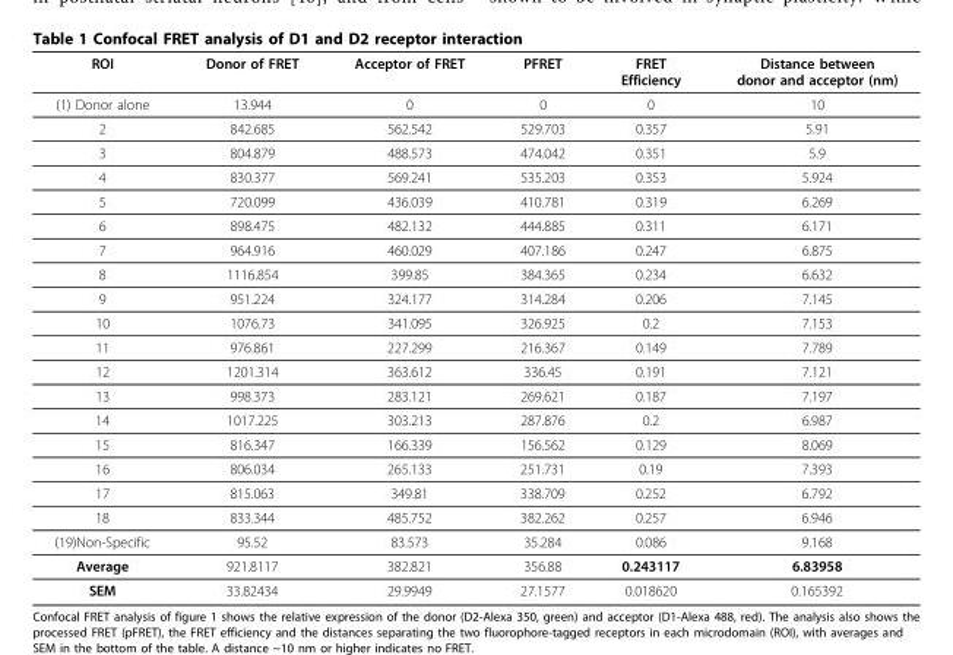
<table><thead><tr><td>ROI</td><td>Donor of FRET</td><td>Acceptor of FRET</td><td>PFRET</td><td>FRET Efficiency</td><td>Distance between donor and acceptor (nm)</td></tr></thead><tbody><tr><td>(1) Donor alone</td><td>13.944</td><td>0</td><td>0</td><td>0</td><td>10</td></tr><tr><td>2</td><td>842.685</td><td>562.542</td><td>529.703</td><td>0.357</td><td>5.91</td></tr><tr><td>3</td><td>804.879</td><td>488.573</td><td>474.042</td><td>0.351</td><td>5.9</td></tr><tr><td>4</td><td>830.377</td><td>569.241</td><td>535.203</td><td>0.353</td><td>5.924</td></tr><tr><td>5</td><td>720.099</td><td>436.039</td><td>410.781</td><td>0.319</td><td>6.269</td></tr><tr><td>6</td><td>898.475</td><td>482.132</td><td>444.885</td><td>0.311</td><td>6.171</td></tr><tr><td>7</td><td>964.916</td><td>460.029</td><td>407.186</td><td>0.247</td><td>6.875</td></tr><tr><td>8</td><td>1116.854</td><td>399.85</td><td>384.365</td><td>0.234</td><td>6.632</td></tr><tr><td>9</td><td>951.224</td><td>324.177</td><td>314.284</td><td>0.206</td><td>7.145</td></tr><tr><td>10</td><td>1076.73</td><td>341.095</td><td>326.925</td><td>0.2</td><td>7.153</td></tr><tr><td>11</td><td>976.861</td><td>227.299</td><td>216.367</td><td>0.149</td><td>7.789</td></tr><tr><td>12</td><td>1201.314</td><td>363.612</td><td>336.45</td><td>0.191</td><td>7.121</td></tr><tr><td>13</td><td>998.373</td><td>283.121</td><td>269.621</td><td>0.187</td><td>7.197</td></tr><tr><td>14</td><td>1017.225</td><td>303.213</td><td>287.876</td><td>0.2</td><td>6.987</td></tr><tr><td>15</td><td>816.347</td><td>166.339</td><td>156.562</td><td>0.129</td><td>8.069</td></tr><tr><td>16</td><td>806.034</td><td>265.133</td><td>251.731</td><td>0.19</td><td>7.393</td></tr><tr><td>17</td><td>815.063</td><td>349.81</td><td>338.709</td><td>0.252</td><td>6.792</td></tr><tr><td>18</td><td>833.344</td><td>485.752</td><td>382.262</td><td>0.257</td><td>6.946</td></tr><tr><td>(19)Non-Specific</td><td>95.52</td><td>83.573</td><td>35.284</td><td>0.086</td><td>9.168</td></tr><tr><td>Average</td><td>921.8117</td><td>382.821</td><td>356.88</td><td>0.243117</td><td>6.83958</td></tr><tr><td>SEM</td><td>33.82434</td><td>29.9949</td><td>27.1577</td><td>0.018620</td><td>0.165392</td></tr></tbody></table>